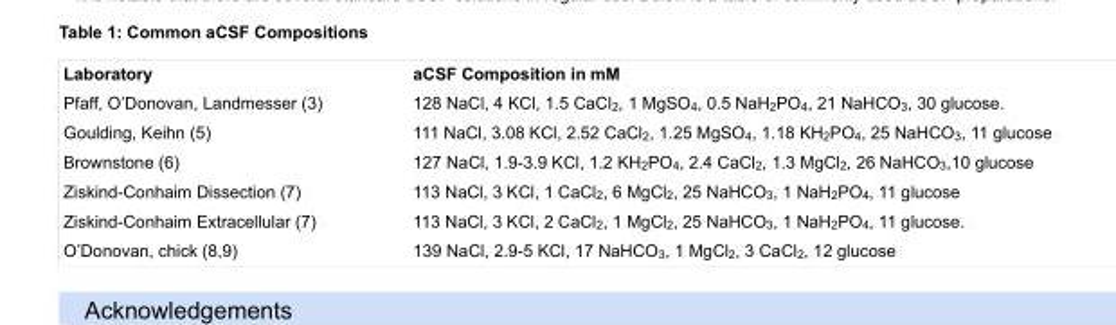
<table><tbody><tr><td>Laboratory</td><td>aCSF Composition in mM</td></tr><tr><td>Pfaff, O’Donovan, Landmesser (3)</td><td>128 NaCl, 4 KCl, 1.5 CaCl<sub>2</sub>, 1 MgSO<sub>4</sub>, 0.5 NaH<sub>2</sub>PO<sub>4</sub>, 21 NaHCO<sub>3</sub>, 30 glucose.</td></tr><tr><td>Goulding, Keihn (5)</td><td>111 NaCl, 3.08 KCl, 2.52 CaCl<sub>2</sub>, 1.25 MgSO<sub>4</sub>, 1.18 KH<sub>2</sub>PO<sub>4</sub>, 25 NaHCO<sub>3</sub>, 11 glucose</td></tr><tr><td>Brownstone (6)</td><td>127 NaCl, 1.9-3.9 KCl, 1.2 KH<sub>2</sub>PO<sub>4</sub>, 2.4 CaCl<sub>2</sub>, 1.3 MgCl<sub>2</sub>, 26 NaHCO<sub>3</sub>,10 glucose</td></tr><tr><td>Ziskind-Conhaim Dissection (7)</td><td>113 NaCl, 3 KCl, 1 CaCl<sub>2</sub>, 6 MgCl<sub>2</sub>, 25 NaHCO<sub>3</sub>, 1 NaH<sub>2</sub>PO<sub>4</sub>, 11 glucose</td></tr><tr><td>Ziskind-Conhaim Extracellular (7)</td><td>113 NaCl, 3 KCl, 2 CaCl<sub>2</sub>, 1 MgCl<sub>2</sub>, 25 NaHCO<sub>3</sub>, 1 NaH<sub>2</sub>PO<sub>4</sub>, 11 glucose.</td></tr><tr><td>O’Donovan, chick (8,9)</td><td>139 NaCl, 2.9-5 KCl, 17 NaHCO<sub>3</sub>, 1 MgCl<sub>2</sub>, 3 CaCl<sub>2</sub>, 12 glucose</td></tr></tbody></table>